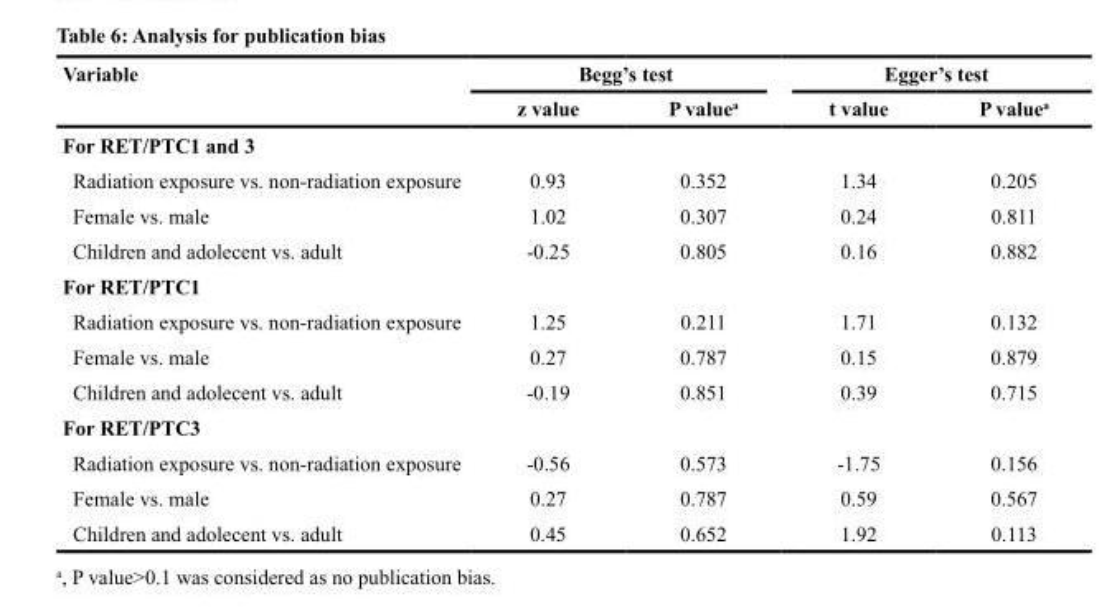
<table><thead><tr><td rowspan="2">Variable</td><td colspan="2">Begg’s test</td><td colspan="2">Egger’s test</td></tr><tr><td>z value</td><td>P value<sup>a</sup></td><td>t value</td><td>P value<sup>a</sup></td></tr></thead><tbody><tr><td colspan="5">For RET/PTC1 and 3</td></tr><tr><td>Radiation exposure vs. non-radiation exposure</td><td>0.93</td><td>0.352</td><td>1.34</td><td>0.205</td></tr><tr><td>Female vs. male</td><td>1.02</td><td>0.307</td><td>0.24</td><td>0.811</td></tr><tr><td>Children and adolecent vs. adult</td><td>-0.25</td><td>0.805</td><td>0.16</td><td>0.882</td></tr><tr><td colspan="5">For RET/PTC1</td></tr><tr><td>Radiation exposure vs. non-radiation exposure</td><td>1.25</td><td>0.211</td><td>1.71</td><td>0.132</td></tr><tr><td>Female vs. male</td><td>0.27</td><td>0.787</td><td>0.15</td><td>0.879</td></tr><tr><td>Children and adolecent vs. adult</td><td>-0.19</td><td>0.851</td><td>0.39</td><td>0.715</td></tr><tr><td colspan="5">For RET/PTC3</td></tr><tr><td>Radiation exposure vs. non-radiation exposure</td><td>-0.56</td><td>0.573</td><td>-1.75</td><td>0.156</td></tr><tr><td>Female vs. male</td><td>0.27</td><td>0.787</td><td>0.59</td><td>0.567</td></tr><tr><td>Children and adolecent vs. adult</td><td>0.45</td><td>0.652</td><td>1.92</td><td>0.113</td></tr></tbody></table>